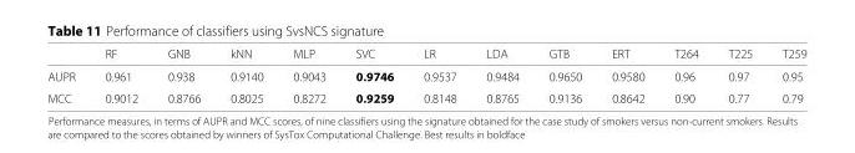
<table><thead><tr><td></td><td>RF</td><td>GNB</td><td>kNN</td><td>MLP</td><td>SVC</td><td>LR</td><td>LDA</td><td>GTB</td><td>ERT</td><td>T264</td><td>T225</td><td>T259</td></tr></thead><tbody><tr><td>AUPR</td><td>0.961</td><td>0.938</td><td>0.9140</td><td>0.9043</td><td>0.9746</td><td>0.9537</td><td>0.9484</td><td>0.9650</td><td>0.9580</td><td>0.96</td><td>0.97</td><td>0.95</td></tr><tr><td>MCC</td><td>0.9012</td><td>0.8766</td><td>0.8025</td><td>0.8272</td><td>0.9259</td><td>0.8148</td><td>0.8765</td><td>0.9136</td><td>0.8642</td><td>0.90</td><td>0.77</td><td>0.79</td></tr></tbody></table>